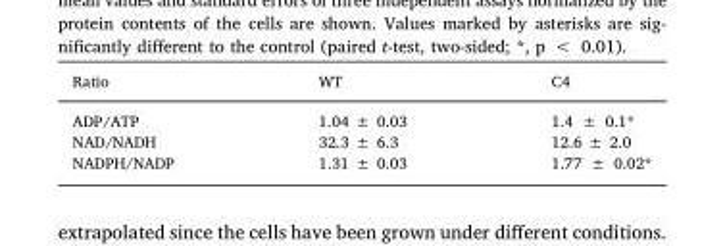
<table><thead><tr><td>Ratio</td><td>WT</td><td>C4</td></tr></thead><tbody><tr><td>ADP/ATP</td><td>1.04 ± 0.03</td><td>1.4 ± 0.1*</td></tr><tr><td>NAD/NADH</td><td>32.3 ± 6.3</td><td>12.6 ± 2.0</td></tr><tr><td>NADPH/NADP</td><td>1.31 ± 0.03</td><td>1.77 ± 0.02*</td></tr></tbody></table>